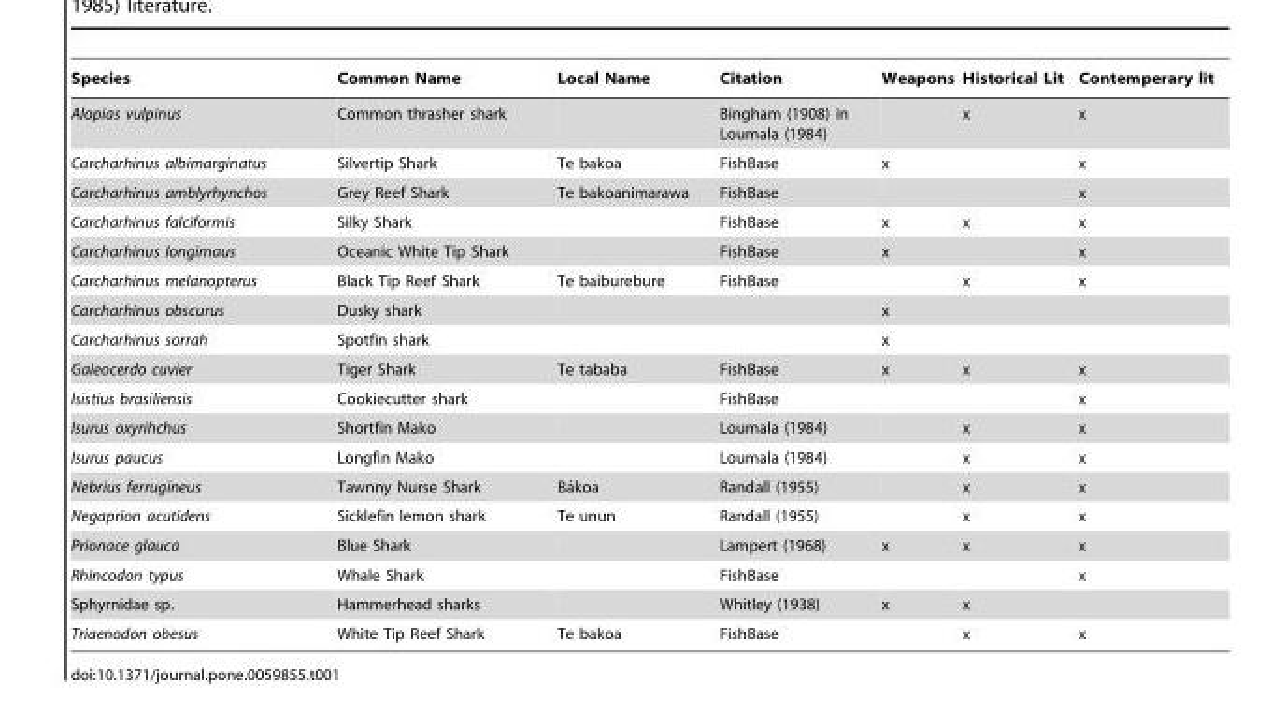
<table><thead><tr><td>Species</td><td>Common Name</td><td>Local Name</td><td>Citation</td><td>Weapons</td><td>Historical Lit</td><td>Contemperary lit</td></tr></thead><tbody><tr><td>Alopias vulpinus</td><td>Common thrasher shark</td><td></td><td>Bingham (1908) in Loumala (1984)</td><td></td><td>x</td><td>x</td></tr><tr><td>Carcharhinus albimarginatus</td><td>Silvertip Shark</td><td>Te bakoa</td><td>FishBase</td><td>x</td><td></td><td>x</td></tr><tr><td>Carcharhinus amblyrhynchos</td><td>Grey Reef Shark</td><td>Te bakoanimarawa</td><td>FishBase</td><td></td><td></td><td>x</td></tr><tr><td>Carcharhinus falciformis</td><td>Silky Shark</td><td></td><td>FishBase</td><td>x</td><td>x</td><td>x</td></tr><tr><td>Carcharhinus longimaus</td><td>Oceanic White Tip Shark</td><td></td><td>FishBase</td><td>x</td><td></td><td>x</td></tr><tr><td>Carcharhinus melanopterus</td><td>Black Tip Reef Shark</td><td>Te baiburebure</td><td>FishBase</td><td></td><td>x</td><td>x</td></tr><tr><td>Carcharhinus obscurus</td><td>Dusky shark</td><td></td><td></td><td>x</td><td></td><td></td></tr><tr><td>Carcharhinus sorrah</td><td>Spotfin shark</td><td></td><td></td><td>x</td><td></td><td></td></tr><tr><td>Galeocerdo cuvier</td><td>Tiger Shark</td><td>Te tababa</td><td>FishBase</td><td>x</td><td>x</td><td>x</td></tr><tr><td>Isistius brasiliensis</td><td>Cookiecutter shark</td><td></td><td>FishBase</td><td></td><td></td><td>x</td></tr><tr><td>Isurus oxyrihchus</td><td>Shortfin Mako</td><td></td><td>Loumala (1984)</td><td></td><td>x</td><td>x</td></tr><tr><td>Isurus paucus</td><td>Longfin Mako</td><td></td><td>Loumala (1984)</td><td></td><td>x</td><td>x</td></tr><tr><td>Nebrius ferrugineus</td><td>Tawnny Nurse Shark</td><td>Ba´koa</td><td>Randall (1955)</td><td></td><td>x</td><td>x</td></tr><tr><td>Negaprion acutidens</td><td>Sicklefin lemon shark</td><td>Te unun</td><td>Randall (1955)</td><td></td><td>x</td><td>x</td></tr><tr><td>Prionace glauca</td><td>Blue Shark</td><td></td><td>Lampert (1968)</td><td>x</td><td>x</td><td>x</td></tr><tr><td>Rhincodon typus</td><td>Whale Shark</td><td></td><td>FishBase</td><td></td><td></td><td>x</td></tr><tr><td>Sphyrnidae sp.</td><td>Hammerhead sharks</td><td></td><td>Whitley (1938)</td><td>x</td><td>x</td><td></td></tr><tr><td>Triaenodon obesus</td><td>White Tip Reef Shark</td><td>Te bakoa</td><td>FishBase</td><td></td><td>x</td><td>x</td></tr></tbody></table>